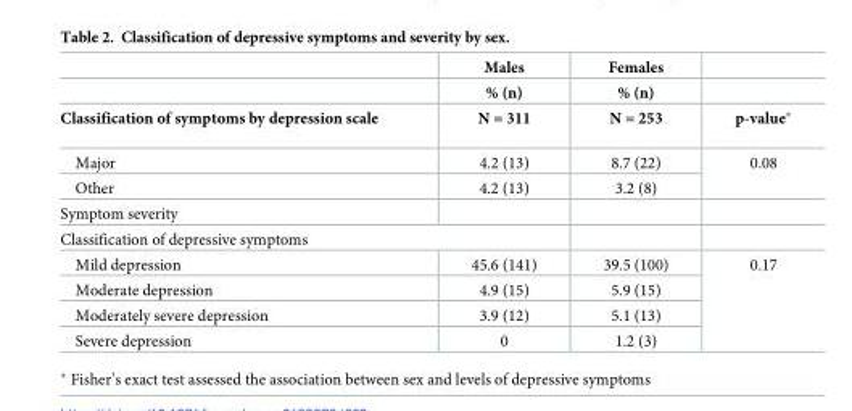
<table><thead><tr><td rowspan="3">Classification of symptoms by depression scale</td><td rowspan="3">Males % (n) N = 311</td><td rowspan="3">Females % (n) N = 253</td><td rowspan="3">p-value*</td></tr><tr></tr><tr></tr></thead><tbody><tr><td>Major</td><td>4.2 (13)</td><td>8.7 (22)</td><td rowspan="2">0.08</td></tr><tr><td>Other</td><td>4.2 (13)</td><td>3.2 (8)</td></tr><tr><td colspan="4">Symptom severity</td></tr><tr><td colspan="4">Classification of depressive symptoms</td></tr><tr><td>Mild depression</td><td>45.6 (141)</td><td>39.5 (100)</td><td rowspan="4">0.17</td></tr><tr><td>Moderate depression</td><td>4.9 (15)</td><td>5.9 (15)</td></tr><tr><td>Moderately severe depression</td><td>3.9 (12)</td><td>5.1 (13)</td></tr><tr><td>Severe depression</td><td>0</td><td>1.2 (3)</td></tr></tbody></table>